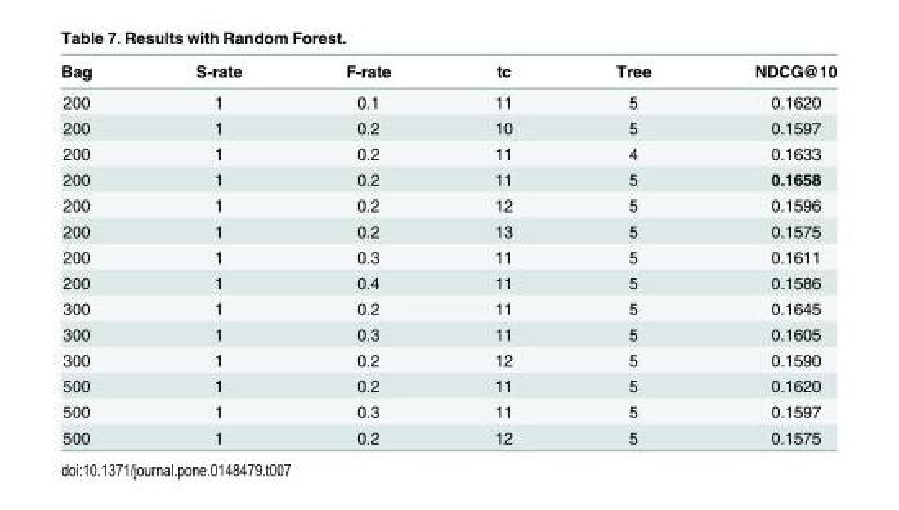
<table><thead><tr><td>Bag</td><td>S-rate</td><td>F-rate</td><td>tc</td><td>Tree</td><td>NDCG@10</td></tr></thead><tbody><tr><td>200</td><td>1</td><td>0.1</td><td>11</td><td>5</td><td>0.1620</td></tr><tr><td>200</td><td>1</td><td>0.2</td><td>10</td><td>5</td><td>0.1597</td></tr><tr><td>200</td><td>1</td><td>0.2</td><td>11</td><td>4</td><td>0.1633</td></tr><tr><td>200</td><td>1</td><td>0.2</td><td>11</td><td>5</td><td>0.1658</td></tr><tr><td>200</td><td>1</td><td>0.2</td><td>12</td><td>5</td><td>0.1596</td></tr><tr><td>200</td><td>1</td><td>0.2</td><td>13</td><td>5</td><td>0.1575</td></tr><tr><td>200</td><td>1</td><td>0.3</td><td>11</td><td>5</td><td>0.1611</td></tr><tr><td>200</td><td>1</td><td>0.4</td><td>11</td><td>5</td><td>0.1586</td></tr><tr><td>300</td><td>1</td><td>0.2</td><td>11</td><td>5</td><td>0.1645</td></tr><tr><td>300</td><td>1</td><td>0.3</td><td>11</td><td>5</td><td>0.1605</td></tr><tr><td>300</td><td>1</td><td>0.2</td><td>12</td><td>5</td><td>0.1590</td></tr><tr><td>500</td><td>1</td><td>0.2</td><td>11</td><td>5</td><td>0.1620</td></tr><tr><td>500</td><td>1</td><td>0.3</td><td>11</td><td>5</td><td>0.1597</td></tr><tr><td>500</td><td>1</td><td>0.2</td><td>12</td><td>5</td><td>0.1575</td></tr></tbody></table>